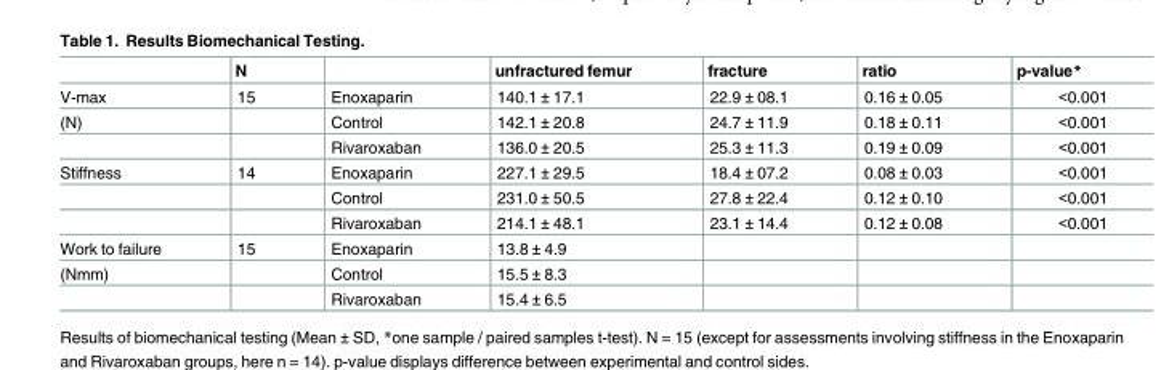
<table><thead><tr><td></td><td>N</td><td></td><td>unfractured femur</td><td>fracture</td><td>ratio</td><td>p-value*</td></tr></thead><tbody><tr><td>V-max</td><td>15</td><td>Enoxaparin</td><td>140.1 ± 17.1</td><td>22.9 ± 08.1</td><td>0.16 ± 0.05</td><td>&lt;0.001</td></tr><tr><td rowspan="2">(N)</td><td></td><td>Control</td><td>142.1 ± 20.8</td><td>24.7 ± 11.9</td><td>0.18 ± 0.11</td><td>&lt;0.001</td></tr><tr><td></td><td>Rivaroxaban</td><td>136.0 ± 20.5</td><td>25.3 ± 11.3</td><td>0.19 ± 0.09</td><td>&lt;0.001</td></tr><tr><td rowspan="3">Stiffness</td><td>14</td><td>Enoxaparin</td><td>227.1 ± 29.5</td><td>18.4 ± 07.2</td><td>0.08 ± 0.03</td><td>&lt;0.001</td></tr><tr><td></td><td>Control</td><td>231.0 ± 50.5</td><td>27.8 ± 22.4</td><td>0.12 ± 0.10</td><td>&lt;0.001</td></tr><tr><td></td><td>Rivaroxaban</td><td>214.1 ± 48.1</td><td>23.1 ± 14.4</td><td>0.12 ± 0.08</td><td>&lt;0.001</td></tr><tr><td>Work to failure</td><td>15</td><td>Enoxaparin</td><td>13.8 ± 4.9</td><td></td><td></td><td></td></tr><tr><td rowspan="2">(Nmm)</td><td></td><td>Control</td><td>15.5 ± 8.3</td><td></td><td></td><td></td></tr><tr><td></td><td>Rivaroxaban</td><td>15.4 ± 6.5</td><td></td><td></td><td></td></tr></tbody></table>